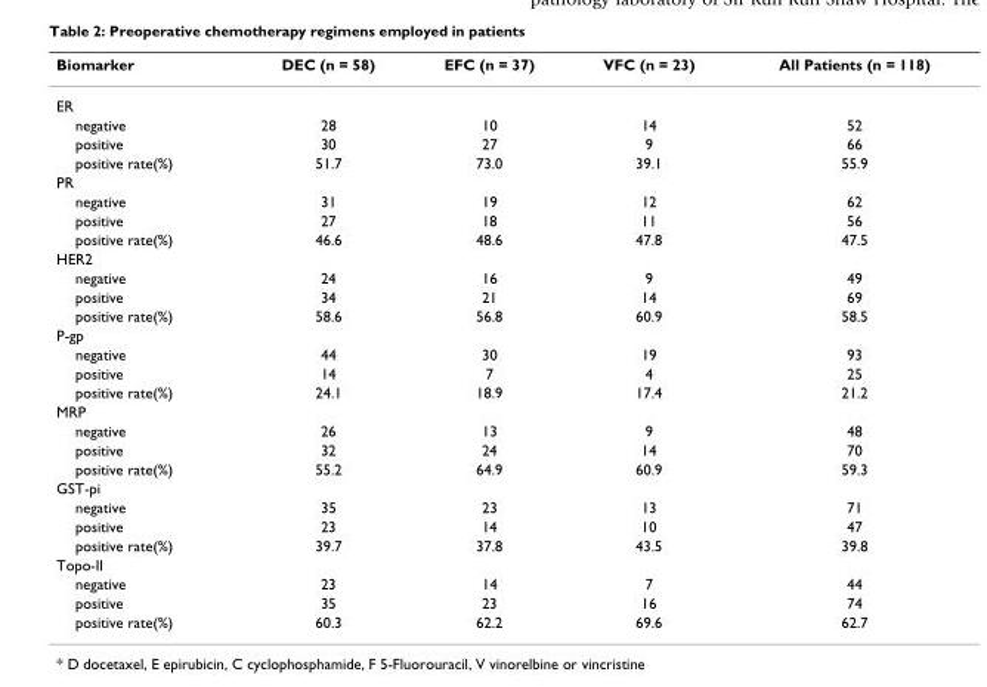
<table><thead><tr><td>Biomarker</td><td>DEC (n = 58)</td><td>EFC (n = 37)</td><td>VFC (n = 23)</td><td>All Patients (n = 118)</td></tr></thead><tbody><tr><td colspan="5">ER</td></tr><tr><td>negative</td><td>28</td><td>10</td><td>14</td><td>52</td></tr><tr><td>positive</td><td>30</td><td>27</td><td>9</td><td>66</td></tr><tr><td>positive rate(%)</td><td>51.7</td><td>73.0</td><td>39.1</td><td>55.9</td></tr><tr><td colspan="5">PR</td></tr><tr><td>negative</td><td>31</td><td>19</td><td>12</td><td>62</td></tr><tr><td>positive</td><td>27</td><td>18</td><td>11</td><td>56</td></tr><tr><td>positive rate(%)</td><td>46.6</td><td>48.6</td><td>47.8</td><td>47.5</td></tr><tr><td colspan="5">HER2</td></tr><tr><td>negative</td><td>24</td><td>16</td><td>9</td><td>49</td></tr><tr><td>positive</td><td>34</td><td>21</td><td>14</td><td>69</td></tr><tr><td>positive rate(%)</td><td>58.6</td><td>56.8</td><td>60.9</td><td>58.5</td></tr><tr><td colspan="5">P-gp</td></tr><tr><td>negative</td><td>44</td><td>30</td><td>19</td><td>93</td></tr><tr><td>positive</td><td>14</td><td>7</td><td>4</td><td>25</td></tr><tr><td>positive rate(%)</td><td>24.1</td><td>18.9</td><td>17.4</td><td>21.2</td></tr><tr><td colspan="5">MRP</td></tr><tr><td>negative</td><td>26</td><td>13</td><td>9</td><td>48</td></tr><tr><td>positive</td><td>32</td><td>24</td><td>14</td><td>70</td></tr><tr><td>positive rate(%)</td><td>55.2</td><td>64.9</td><td>60.9</td><td>59.3</td></tr><tr><td colspan="5">GST-pi</td></tr><tr><td>negative</td><td>35</td><td>23</td><td>13</td><td>71</td></tr><tr><td>positive</td><td>23</td><td>14</td><td>10</td><td>47</td></tr><tr><td>positive rate(%)</td><td>39.7</td><td>37.8</td><td>43.5</td><td>39.8</td></tr><tr><td colspan="5">Topo-II</td></tr><tr><td>negative</td><td>23</td><td>14</td><td>7</td><td>44</td></tr><tr><td>positive</td><td>35</td><td>23</td><td>16</td><td>74</td></tr><tr><td>positive rate(%)</td><td>60.3</td><td>62.2</td><td>69.6</td><td>62.7</td></tr></tbody></table>